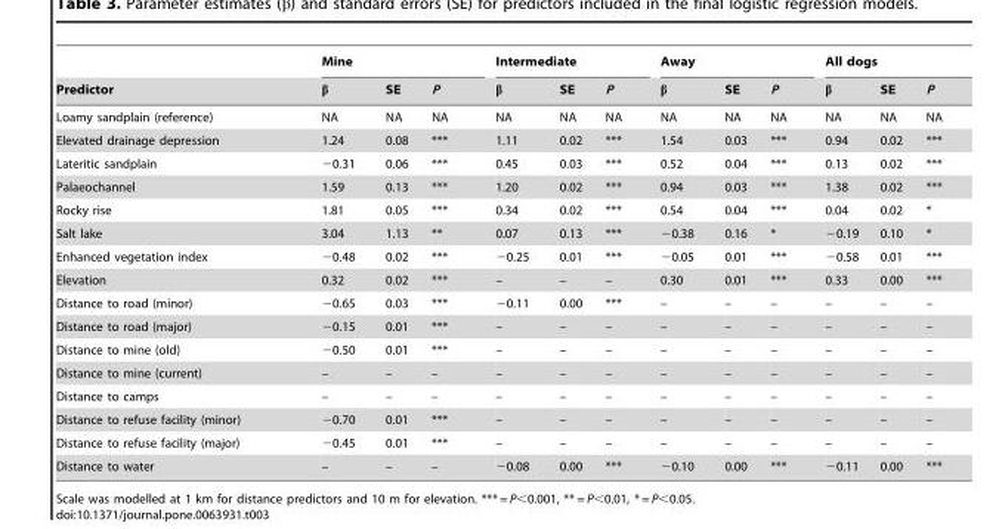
<table><thead><tr><td rowspan="2">Predictor</td><td colspan="3">Mine</td><td colspan="3">Intermediate</td><td colspan="3">Away</td><td colspan="3">All dogs</td></tr><tr><td>β</td><td>SE</td><td>P</td><td>β</td><td>SE</td><td>P</td><td>β</td><td>SE</td><td>P</td><td>β</td><td>SE</td><td>P</td></tr></thead><tbody><tr><td>Loamy sandplain (reference)</td><td>NA</td><td>NA</td><td>NA</td><td>NA</td><td>NA</td><td>NA</td><td>NA</td><td>NA</td><td>NA</td><td>NA</td><td>NA</td><td>NA</td></tr><tr><td>Elevated drainage depression</td><td>1.24</td><td>0.08</td><td>***</td><td>1.11</td><td>0.02</td><td>***</td><td>1.54</td><td>0.03</td><td>***</td><td>0.94</td><td>0.02</td><td>***</td></tr><tr><td>Lateritic sandplain</td><td>−0.31</td><td>0.06</td><td>***</td><td>0.45</td><td>0.03</td><td>***</td><td>0.52</td><td>0.04</td><td>***</td><td>0.13</td><td>0.02</td><td>***</td></tr><tr><td>Palaeochannel</td><td>1.59</td><td>0.13</td><td>***</td><td>1.20</td><td>0.02</td><td>***</td><td>0.94</td><td>0.03</td><td>***</td><td>1.38</td><td>0.02</td><td>***</td></tr><tr><td>Rocky rise</td><td>1.81</td><td>0.05</td><td>***</td><td>0.34</td><td>0.02</td><td>***</td><td>0.54</td><td>0.04</td><td>***</td><td>0.04</td><td>0.02</td><td>*</td></tr><tr><td>Salt lake</td><td>3.04</td><td>1.13</td><td>**</td><td>0.07</td><td>0.13</td><td>***</td><td>−0.38</td><td>0.16</td><td>*</td><td>−0.19</td><td>0.10</td><td>*</td></tr><tr><td>Enhanced vegetation index</td><td>−0.48</td><td>0.02</td><td>***</td><td>−0.25</td><td>0.01</td><td>***</td><td>−0.05</td><td>0.01</td><td>***</td><td>−0.58</td><td>0.01</td><td>***</td></tr><tr><td>Elevation</td><td>0.32</td><td>0.02</td><td>***</td><td>–</td><td>–</td><td>–</td><td>0.30</td><td>0.01</td><td>***</td><td>0.33</td><td>0.00</td><td>***</td></tr><tr><td>Distance to road (minor)</td><td>−0.65</td><td>0.03</td><td>***</td><td>−0.11</td><td>0.00</td><td>***</td><td>–</td><td>–</td><td>–</td><td>–</td><td>–</td><td>–</td></tr><tr><td>Distance to road (major)</td><td>−0.15</td><td>0.01</td><td>***</td><td>–</td><td>–</td><td>–</td><td>–</td><td>–</td><td>–</td><td>–</td><td>–</td><td>–</td></tr><tr><td>Distance to mine (old)</td><td>−0.50</td><td>0.01</td><td>***</td><td>–</td><td>–</td><td>–</td><td>–</td><td>–</td><td>–</td><td>–</td><td>–</td><td>–</td></tr><tr><td>Distance to mine (current)</td><td>–</td><td>–</td><td>–</td><td>–</td><td>–</td><td>–</td><td>–</td><td>–</td><td>–</td><td>–</td><td>–</td><td>–</td></tr><tr><td>Distance to camps</td><td>–</td><td>–</td><td>–</td><td>–</td><td>–</td><td>–</td><td>–</td><td>–</td><td>–</td><td>–</td><td>–</td><td>–</td></tr><tr><td>Distance to refuse facility (minor)</td><td>−0.70</td><td>0.01</td><td>***</td><td>–</td><td>–</td><td>–</td><td>–</td><td>–</td><td>–</td><td>–</td><td>–</td><td>–</td></tr><tr><td>Distance to refuse facility (major)</td><td>−0.45</td><td>0.01</td><td>***</td><td>–</td><td>–</td><td>–</td><td>–</td><td>–</td><td>–</td><td>–</td><td>–</td><td>–</td></tr><tr><td>Distance to water</td><td>–</td><td>–</td><td>–</td><td>−0.08</td><td>0.00</td><td>***</td><td>−0.10</td><td>0.00</td><td>***</td><td>−0.11</td><td>0.00</td><td>***</td></tr></tbody></table>